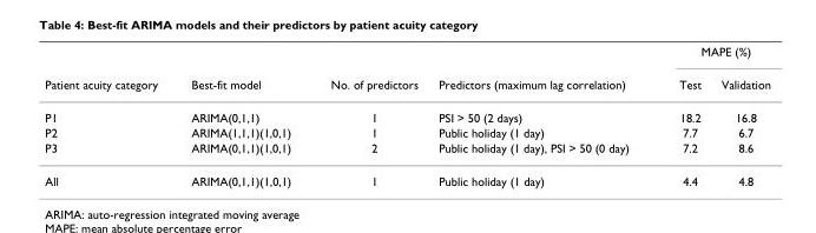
<table><thead><tr><td rowspan="2">Patient acuity category</td><td rowspan="2">Best-fit model</td><td rowspan="2">No. of predictors</td><td rowspan="2">Predictors (maximum lag correlation)</td><td colspan="2">MAPE (%)</td></tr><tr><td>Test</td><td>Validation</td></tr></thead><tbody><tr><td>P1</td><td>ARIMA(0,1,1)</td><td>1</td><td>PSI &gt; 50 (2 days)</td><td>18.2</td><td>16.8</td></tr><tr><td>P2</td><td>ARIMA(1,1,1)(1,0,1)</td><td>1</td><td>Public holiday (1 day)</td><td>7.7</td><td>6.7</td></tr><tr><td>P3</td><td>ARIMA(0,1,1)(1,0,1)</td><td>2</td><td>Public holiday (1 day), PSI &gt; 50 (0 day)</td><td>7.2</td><td>8.6</td></tr><tr><td>All</td><td>ARIMA(0,1,1)(1,0,1)</td><td>1</td><td>Public holiday (1 day)</td><td>4.4</td><td>4.8</td></tr></tbody></table>